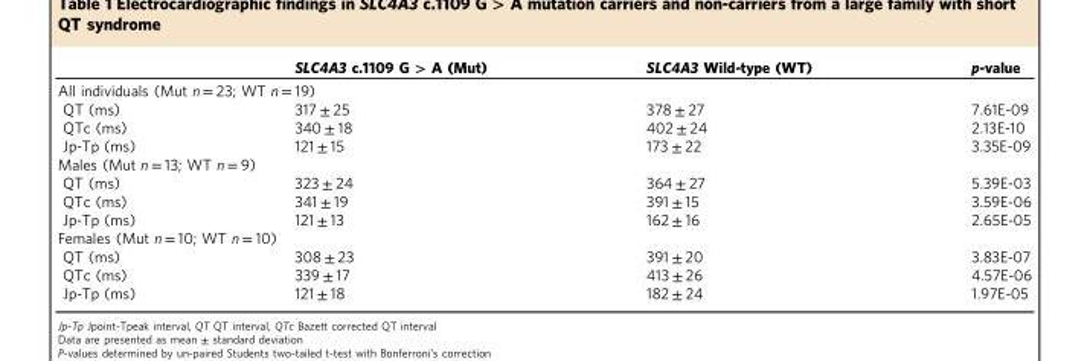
<table><thead><tr><td></td><td>SLC4A3 c.1109 G &gt; A (Mut)</td><td>SLC4A3 Wild-type (WT)</td><td>p-value</td></tr></thead><tbody><tr><td colspan="4">All individuals (Mut n = 23; WT n = 19)</td></tr><tr><td>QT (ms)</td><td>317 ± 25</td><td>378 ± 27</td><td>7.61E-09</td></tr><tr><td>QTc (ms)</td><td>340 ± 18</td><td>402 ± 24</td><td>2.13E-10</td></tr><tr><td>Jp-Tp (ms)</td><td>121 ± 15</td><td>173 ± 22</td><td>3.35E-09</td></tr><tr><td colspan="4">Males (Mut n = 13; WT n = 9)</td></tr><tr><td>QT (ms)</td><td>323 ± 24</td><td>364 ± 27</td><td>5.39E-03</td></tr><tr><td>QTc (ms)</td><td>341 ± 19</td><td>391 ± 15</td><td>3.59E-06</td></tr><tr><td>Jp-Tp (ms)</td><td>121 ± 13</td><td>162 ± 16</td><td>2.65E-05</td></tr><tr><td colspan="4">Females (Mut n = 10; WT n = 10)</td></tr><tr><td>QT (ms)</td><td>308 ± 23</td><td>391 ± 20</td><td>3.83E-07</td></tr><tr><td>QTc (ms)</td><td>339 ± 17</td><td>413 ± 26</td><td>4.57E-06</td></tr><tr><td>Jp-Tp (ms)</td><td>121 ± 18</td><td>182 ± 24</td><td>1.97E-05</td></tr></tbody></table>